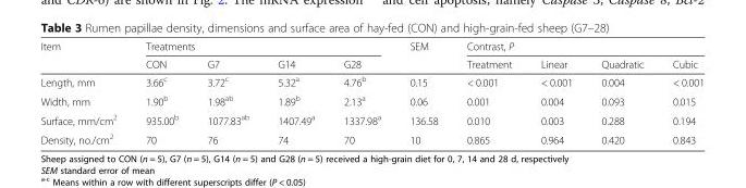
<table><thead><tr><td rowspan="2">Item</td><td colspan="4">Treatments</td><td rowspan="2">SEM</td><td colspan="4">Contrast, P</td></tr><tr><td>CON</td><td>G7</td><td>G14</td><td>G28</td><td>Treatment</td><td>Linear</td><td>Quadratic</td><td>Cubic</td></tr></thead><tbody><tr><td>Length, mm</td><td>3.66<sup>c</sup></td><td>3.72<sup>c</sup></td><td>5.32<sup>a</sup></td><td>4.76<sup>b</sup></td><td>0.15</td><td>&lt; 0.001</td><td>&lt; 0.001</td><td>0.004</td><td>&lt; 0.001</td></tr><tr><td>Width, mm</td><td>1.90<sup>b</sup></td><td>1.98<sup>ab</sup></td><td>1.89<sup>b</sup></td><td>2.13<sup>a</sup></td><td>0.06</td><td>0.001</td><td>0.004</td><td>0.093</td><td>0.015</td></tr><tr><td>Surface, mm/cm<sup>2</sup></td><td>935.00<sup>b</sup></td><td>1077.83<sup>ab</sup></td><td>1407.49<sup>a</sup></td><td>1337.98<sup>a</sup></td><td>136.58</td><td>0.010</td><td>0.003</td><td>0.288</td><td>0.194</td></tr><tr><td>Density, no./cm<sup>2</sup></td><td>70</td><td>76</td><td>74</td><td>70</td><td>10</td><td>0.865</td><td>0.964</td><td>0.420</td><td>0.843</td></tr></tbody></table>